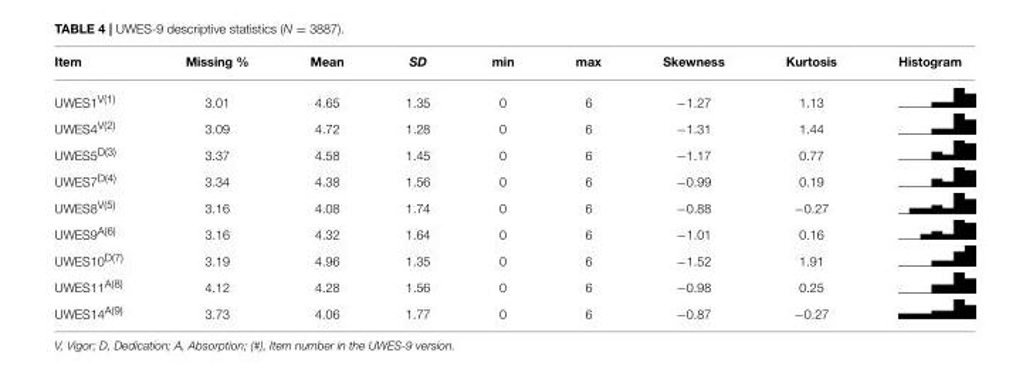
<table><thead><tr><td>Item</td><td>Missing %</td><td>Mean</td><td>SD</td><td>min</td><td>max</td><td>Skewness</td><td>Kurtosis</td><td>Histogram</td></tr></thead><tbody><tr><td>UWES1<sup>V(1)</sup></td><td>3.01</td><td>4.65</td><td>1.35</td><td>0</td><td>6</td><td>−1.27</td><td>1.13</td><td></td></tr><tr><td>UWES4<sup>V(2)</sup></td><td>3.09</td><td>4.72</td><td>1.28</td><td>0</td><td>6</td><td>−1.31</td><td>1.44</td><td></td></tr><tr><td>UWES5<sup>D(3)</sup></td><td>3.37</td><td>4.58</td><td>1.45</td><td>0</td><td>6</td><td>−1.17</td><td>0.77</td><td></td></tr><tr><td>UWES7<sup>D(4)</sup></td><td>3.34</td><td>4.38</td><td>1.56</td><td>0</td><td>6</td><td>−0.99</td><td>0.19</td><td></td></tr><tr><td>UWES8<sup>V(5)</sup></td><td>3.16</td><td>4.08</td><td>1.74</td><td>0</td><td>6</td><td>−0.88</td><td>−0.27</td><td></td></tr><tr><td>UWES9<sup>A(6)</sup></td><td>3.16</td><td>4.32</td><td>1.64</td><td>0</td><td>6</td><td>−1.01</td><td>0.16</td><td></td></tr><tr><td>UWES10<sup>D(7)</sup></td><td>3.19</td><td>4.96</td><td>1.35</td><td>0</td><td>6</td><td>−1.52</td><td>1.91</td><td></td></tr><tr><td>UWES11<sup>A(8)</sup></td><td>4.12</td><td>4.28</td><td>1.56</td><td>0</td><td>6</td><td>−0.98</td><td>0.25</td><td></td></tr><tr><td>UWES14<sup>A(9)</sup></td><td>3.73</td><td>4.06</td><td>1.77</td><td>0</td><td>6</td><td>−0.87</td><td>−0.27</td><td></td></tr></tbody></table>